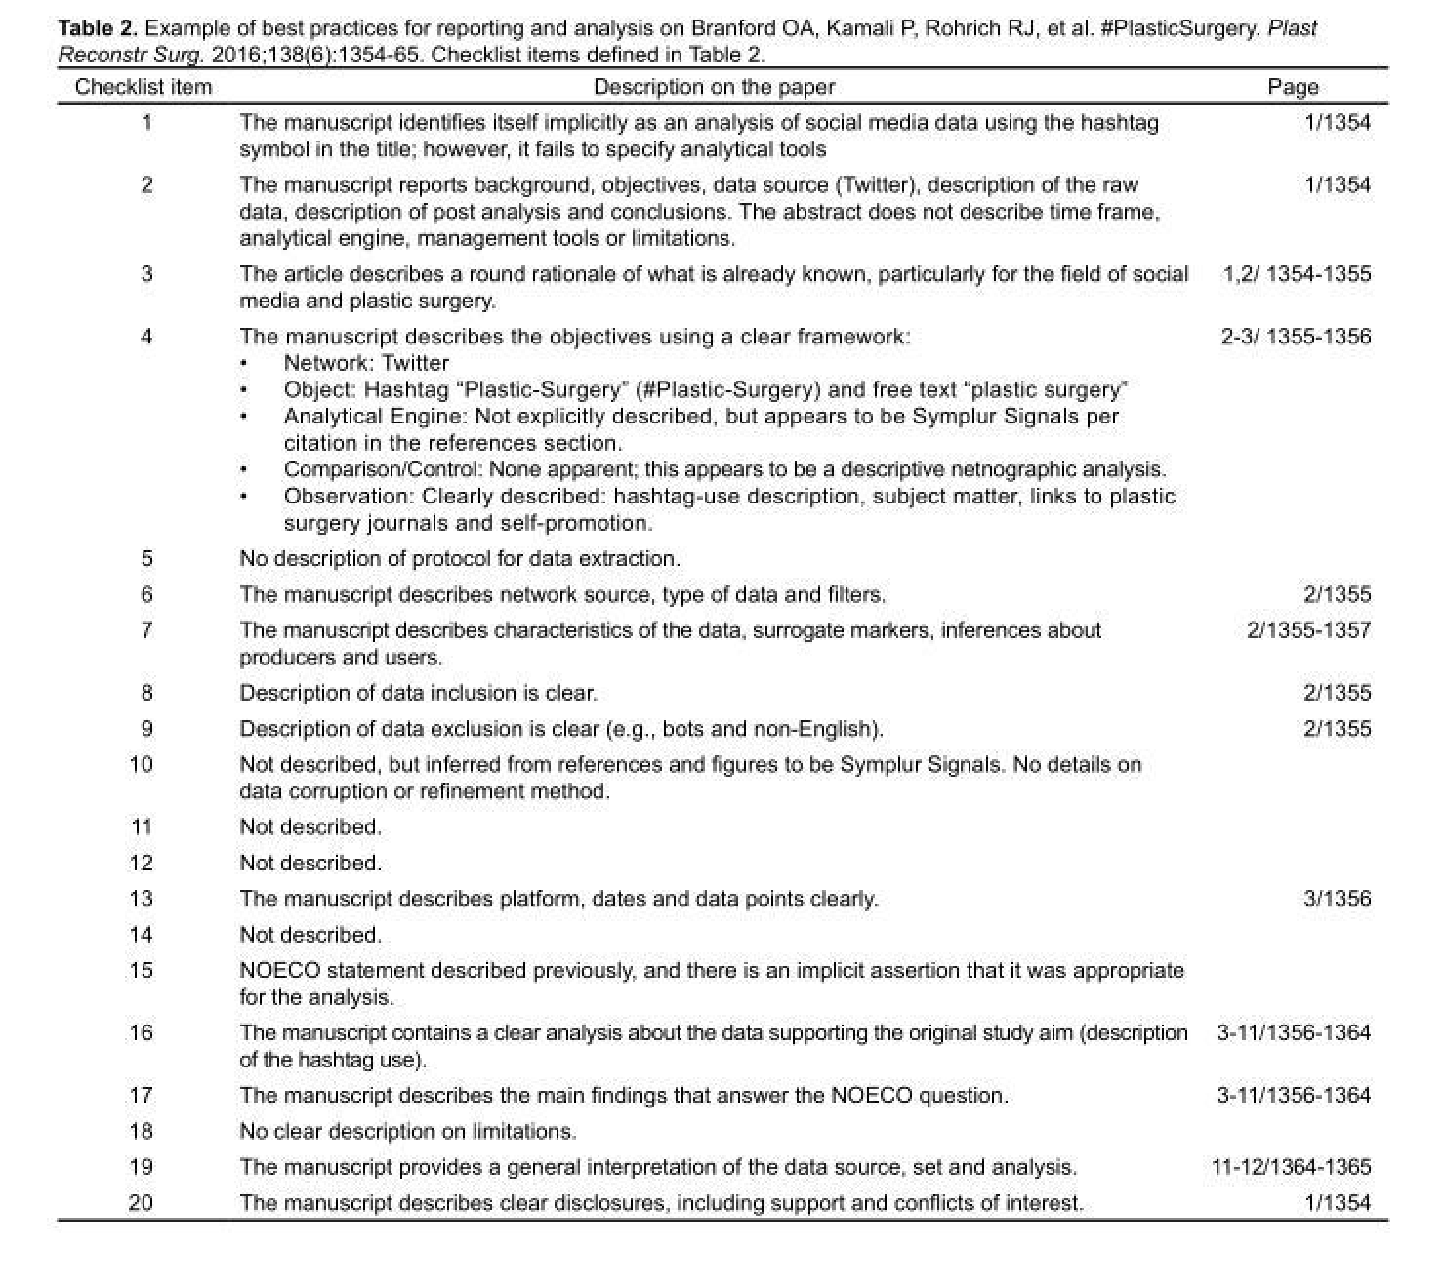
<table><thead><tr><td>Checklist item</td><td>Description on the paper</td><td>Page</td></tr></thead><tbody><tr><td>1</td><td>The manuscript identifies itself implicitly as an analysis of social media data using the hashtag symbol in the title; however, it fails to specify analytical tools</td><td>1/1354</td></tr><tr><td>2</td><td>The manuscript reports background, objectives, data source (Twitter), description of the raw data, description of post analysis and conclusions. The abstract does not describe time frame, analytical engine, management tools or limitations.</td><td>1/1354</td></tr><tr><td>3</td><td>The article describes a round rationale of what is already known, particularly for the field of social media and plastic surgery.</td><td>1,2/ 1354-1355</td></tr><tr><td>4</td><td>The manuscript describes the objectives using a clear framework: • Network: Twitter • Object: Hashtag “Plastic-Surgery” (#Plastic-Surgery) and free text “plastic surgery” • Analytical Engine: Not explicitly described, but appears to be Symplur Signals per citation in the references section. • Comparison/Control: None apparent; this appears to be a descriptive netnographic analysis. • Observation: Clearly described: hashtag-use description, subject matter, links to plastic surgery journals and self-promotion.</td><td>2-3/ 1355-1356</td></tr><tr><td>5</td><td>No description of protocol for data extraction.</td><td></td></tr><tr><td>6</td><td>The manuscript describes network source, type of data and filters.</td><td>2/1355</td></tr><tr><td>7</td><td>The manuscript describes characteristics of the data, surrogate markers, inferences about producers and users.</td><td>2/1355-1357</td></tr><tr><td>8</td><td>Description of data inclusion is clear.</td><td>2/1355</td></tr><tr><td>9</td><td>Description of data exclusion is clear (e.g., bots and non-English).</td><td>2/1355</td></tr><tr><td>10</td><td>Not described, but inferred from references and figures to be Symplur Signals. No details on data corruption or refinement method.</td><td></td></tr><tr><td>11</td><td>Not described.</td><td></td></tr><tr><td>12</td><td>Not described.</td><td></td></tr><tr><td>13</td><td>The manuscript describes platform, dates and data points clearly.</td><td>3/1356</td></tr><tr><td>14</td><td>Not described.</td><td></td></tr><tr><td>15</td><td>NOECO statement described previously, and there is an implicit assertion that it was appropriate for the analysis.</td><td></td></tr><tr><td>16</td><td>The manuscript contains a clear analysis about the data supporting the original study aim (description of the hashtag use).</td><td>3-11/1356-1364</td></tr><tr><td>17</td><td>The manuscript describes the main findings that answer the NOECO question.</td><td>3-11/1356-1364</td></tr><tr><td>18</td><td>No clear description on limitations.</td><td></td></tr><tr><td>19</td><td>The manuscript provides a general interpretation of the data source, set and analysis.</td><td>11-12/1364-1365</td></tr><tr><td>20</td><td>The manuscript describes clear disclosures, including support and conflicts of interest.</td><td>1/1354</td></tr></tbody></table>